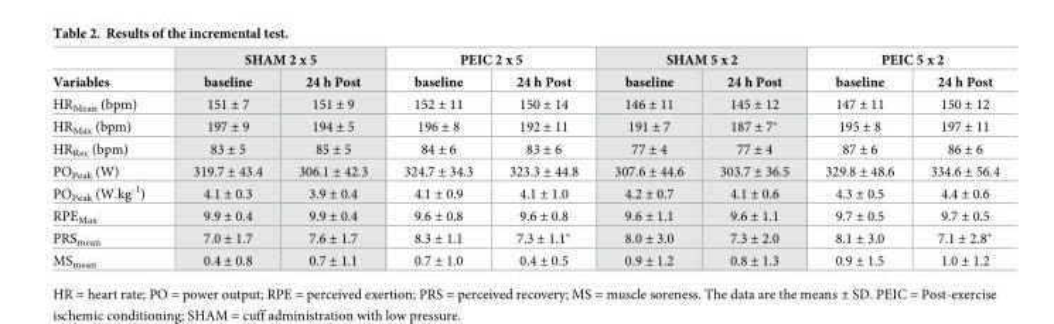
<table><thead><tr><td rowspan="2">Variables</td><td colspan="2">SHAM 2 x 5</td><td colspan="2">PEIC 2 x 5</td><td colspan="2">SHAM 5 x 2</td><td colspan="2">PEIC 5 x 2</td></tr><tr><td>baseline</td><td>24 h Post</td><td>baseline</td><td>24 h Post</td><td>baseline</td><td>24 h Post</td><td>baseline</td><td>24 h Post</td></tr></thead><tbody><tr><td>HR<sub>Mean</sub> (bpm)</td><td>151 ± 7</td><td>151 ± 9</td><td>152 ± 11</td><td>150 ± 14</td><td>146 ± 11</td><td>145 ± 12</td><td>147 ± 11</td><td>150 ± 12</td></tr><tr><td>HR<sub>Max</sub> (bpm)</td><td>197 ± 9</td><td>194 ± 5</td><td>196 ± 8</td><td>192 ± 11</td><td>191 ± 7</td><td>187 ± 7*</td><td>195 ± 8</td><td>197 ± 11</td></tr><tr><td>HR<sub>Rec</sub> (bpm)</td><td>83 ± 5</td><td>85 ± 5</td><td>84 ± 6</td><td>83 ± 6</td><td>77 ± 4</td><td>77 ± 4</td><td>87 ± 6</td><td>86 ± 6</td></tr><tr><td>PO<sub>Peak</sub> (W)</td><td>319.7 ± 43.4</td><td>306.1 ± 42.3</td><td>324.7 ± 34.3</td><td>323.3 ± 44.8</td><td>307.6 ± 44.6</td><td>303.7 ± 36.5</td><td>329.8 ± 48.6</td><td>334.6 ± 56.4</td></tr><tr><td>PO<sub>Peak</sub> (W.kg<sup>-1</sup>)</td><td>4.1 ± 0.3</td><td>3.9 ± 0.4</td><td>4.1 ± 0.9</td><td>4.1 ± 1.0</td><td>4.2 ± 0.7</td><td>4.1 ± 0.6</td><td>4.3 ± 0.5</td><td>4.4 ± 0.6</td></tr><tr><td>RPE<sub>Max</sub></td><td>9.9 ± 0.4</td><td>9.9 ± 0.4</td><td>9.6 ± 0.8</td><td>9.6 ± 0.8</td><td>9.6 ± 1.1</td><td>9.6 ± 1.1</td><td>9.7 ± 0.5</td><td>9.7 ± 0.5</td></tr><tr><td>PRS<sub>mean</sub></td><td>7.0 ± 1.7</td><td>7.6 ± 1.7</td><td>8.3 ± 1.1</td><td>7.3 ± 1.1*</td><td>8.0 ± 3.0</td><td>7.3 ± 2.0</td><td>8.1 ± 3.0</td><td>7.1 ± 2.8*</td></tr><tr><td>MS<sub>mean</sub></td><td>0.4 ± 0.8</td><td>0.7 ± 1.1</td><td>0.7 ± 1.0</td><td>0.4 ± 0.5</td><td>0.9 ± 1.2</td><td>0.8 ± 1.3</td><td>0.9 ± 1.5</td><td>1.0 ± 1.2</td></tr></tbody></table>